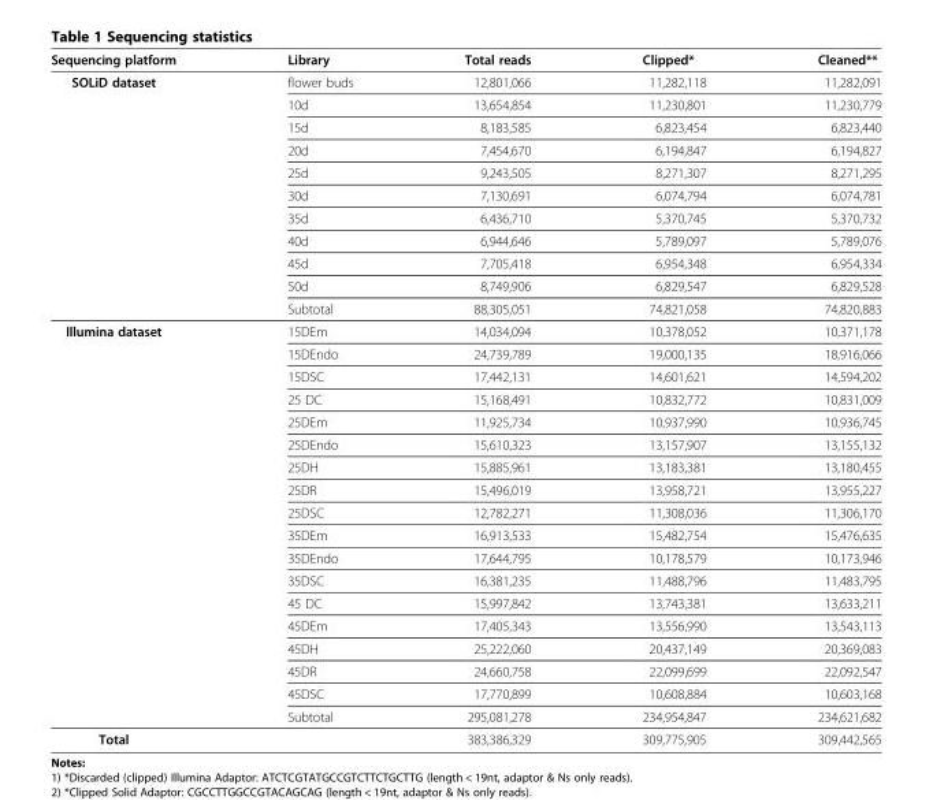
<table><thead><tr><td>Sequencing platform</td><td>Library</td><td>Total reads</td><td>Clipped*</td><td>Cleaned**</td></tr></thead><tbody><tr><td rowspan="11">SOLiD dataset</td><td>flower buds</td><td>12,801,066</td><td>11,282,118</td><td>11,282,091</td></tr><tr><td>10d</td><td>13,654,854</td><td>11,230,801</td><td>11,230,779</td></tr><tr><td>15d</td><td>8,183,585</td><td>6,823,454</td><td>6,823,440</td></tr><tr><td>20d</td><td>7,454,670</td><td>6,194,847</td><td>6,194,827</td></tr><tr><td>25d</td><td>9,243,505</td><td>8,271,307</td><td>8,271,295</td></tr><tr><td>30d</td><td>7,130,691</td><td>6,074,794</td><td>6,074,781</td></tr><tr><td>35d</td><td>6,436,710</td><td>5,370,745</td><td>5,370,732</td></tr><tr><td>40d</td><td>6,944,646</td><td>5,789,097</td><td>5,789,076</td></tr><tr><td>45d</td><td>7,705,418</td><td>6,954,348</td><td>6,954,334</td></tr><tr><td>50d</td><td>8,749,906</td><td>6,829,547</td><td>6,829,528</td></tr><tr><td>Subtotal</td><td>88,305,051</td><td>74,821,058</td><td>74,820,883</td></tr><tr><td rowspan="18">Illumina dataset</td><td>15DEm</td><td>14,034,094</td><td>10,378,052</td><td>10,371,178</td></tr><tr><td>15DEndo</td><td>24,739,789</td><td>19,000,135</td><td>18,916,066</td></tr><tr><td>15DSC</td><td>17,442,131</td><td>14,601,621</td><td>14,594,202</td></tr><tr><td>25 DC</td><td>15,168,491</td><td>10,832,772</td><td>10,831,009</td></tr><tr><td>25DEm</td><td>11,925,734</td><td>10,937,990</td><td>10,936,745</td></tr><tr><td>25DEndo</td><td>15,610,323</td><td>13,157,907</td><td>13,155,132</td></tr><tr><td>25DH</td><td>15,885,961</td><td>13,183,381</td><td>13,180,455</td></tr><tr><td>25DR</td><td>15,496,019</td><td>13,958,721</td><td>13,955,227</td></tr><tr><td>25DSC</td><td>12,782,271</td><td>11,308,036</td><td>11,306,170</td></tr><tr><td>35DEm</td><td>16,913,533</td><td>15,482,754</td><td>15,476,635</td></tr><tr><td>35DEndo</td><td>17,644,795</td><td>10,178,579</td><td>10,173,946</td></tr><tr><td>35DSC</td><td>16,381,235</td><td>11,488,796</td><td>11,483,795</td></tr><tr><td>45 DC</td><td>15,997,842</td><td>13,743,381</td><td>13,633,211</td></tr><tr><td>45DEm</td><td>17,405,343</td><td>13,556,990</td><td>13,543,113</td></tr><tr><td>45DH</td><td>25,222,060</td><td>20,437,149</td><td>20,369,083</td></tr><tr><td>45DR</td><td>24,660,758</td><td>22,099,699</td><td>22,092,547</td></tr><tr><td>45DSC</td><td>17,770,899</td><td>10,608,884</td><td>10,603,168</td></tr><tr><td>Subtotal</td><td>295,081,278</td><td>234,954,847</td><td>234,621,682</td></tr><tr><td>Total</td><td></td><td>383,386,329</td><td>309,775,905</td><td>309,442,565</td></tr></tbody></table>